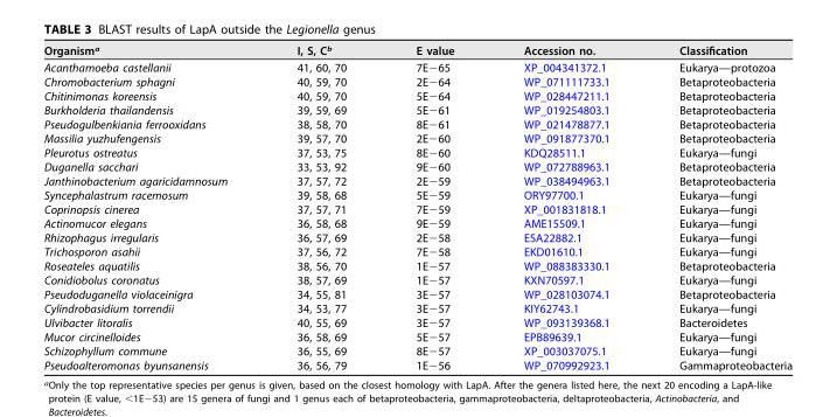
<table><thead><tr><td>Organism<sup>a</sup></td><td>I, S, C<sup>b</sup></td><td>E value</td><td>Accession no.</td><td>Classification</td></tr></thead><tbody><tr><td>Acanthamoeba castellanii</td><td>41, 60, 70</td><td>7E−65</td><td>XP_004341372.1</td><td>Eukarya—protozoa</td></tr><tr><td>Chromobacterium sphagni</td><td>40, 59, 70</td><td>2E−64</td><td>WP_071111733.1</td><td>Betaproteobacteria</td></tr><tr><td>Chitinimonas koreensis</td><td>40, 59, 70</td><td>5E−64</td><td>WP_028447211.1</td><td>Betaproteobacteria</td></tr><tr><td>Burkholderia thailandensis</td><td>39, 59, 69</td><td>5E−61</td><td>WP_019254803.1</td><td>Betaproteobacteria</td></tr><tr><td>Pseudogulbenkiania ferrooxidans</td><td>38, 58, 70</td><td>8E−61</td><td>WP_021478877.1</td><td>Betaproteobacteria</td></tr><tr><td>Massilia yuzhufengensis</td><td>39, 57, 70</td><td>2E−60</td><td>WP_091877370.1</td><td>Betaproteobacteria</td></tr><tr><td>Pleurotus ostreatus</td><td>37, 53, 75</td><td>8E−60</td><td>KDQ28511.1</td><td>Eukarya—fungi</td></tr><tr><td>Duganella sacchari</td><td>33, 53, 92</td><td>9E−60</td><td>WP_072788963.1</td><td>Betaproteobacteria</td></tr><tr><td>Janthinobacterium agaricidamnosum</td><td>37, 57, 72</td><td>2E−59</td><td>WP_038494963.1</td><td>Betaproteobacteria</td></tr><tr><td>Syncephalastrum racemosum</td><td>39, 58, 68</td><td>5E−59</td><td>ORY97700.1</td><td>Eukarya—fungi</td></tr><tr><td>Coprinopsis cinerea</td><td>37, 57, 71</td><td>7E−59</td><td>XP_001831818.1</td><td>Eukarya—fungi</td></tr><tr><td>Actinomucor elegans</td><td>36, 58, 68</td><td>9E−59</td><td>AME15509.1</td><td>Eukarya—fungi</td></tr><tr><td>Rhizophagus irregularis</td><td>36, 57, 69</td><td>2E−58</td><td>ESA22882.1</td><td>Eukarya—fungi</td></tr><tr><td>Trichosporon asahii</td><td>37, 56, 72</td><td>7E−58</td><td>EKD01610.1</td><td>Eukarya—fungi</td></tr><tr><td>Roseateles aquatilis</td><td>38, 56, 70</td><td>1E−57</td><td>WP_088383330.1</td><td>Betaproteobacteria</td></tr><tr><td>Conidiobolus coronatus</td><td>38, 57, 69</td><td>1E−57</td><td>KXN70597.1</td><td>Eukarya—fungi</td></tr><tr><td>Pseudoduganella violaceinigra</td><td>34, 55, 81</td><td>3E−57</td><td>WP_028103074.1</td><td>Betaproteobacteria</td></tr><tr><td>Cylindrobasidium torrendii</td><td>34, 53, 77</td><td>3E−57</td><td>KIY62743.1</td><td>Eukarya—fungi</td></tr><tr><td>Ulvibacter litoralis</td><td>40, 55, 69</td><td>3E−57</td><td>WP_093139368.1</td><td>Bacteroidetes</td></tr><tr><td>Mucor circinelloides</td><td>36, 58, 69</td><td>5E−57</td><td>EPB89639.1</td><td>Eukarya—fungi</td></tr><tr><td>Schizophyllum commune</td><td>36, 55, 69</td><td>8E−57</td><td>XP_003037075.1</td><td>Eukarya—fungi</td></tr><tr><td>Pseudoalteromonas byunsanensis</td><td>36, 56, 79</td><td>1E−56</td><td>WP_070992923.1</td><td>Gammaproteobacteria</td></tr></tbody></table>